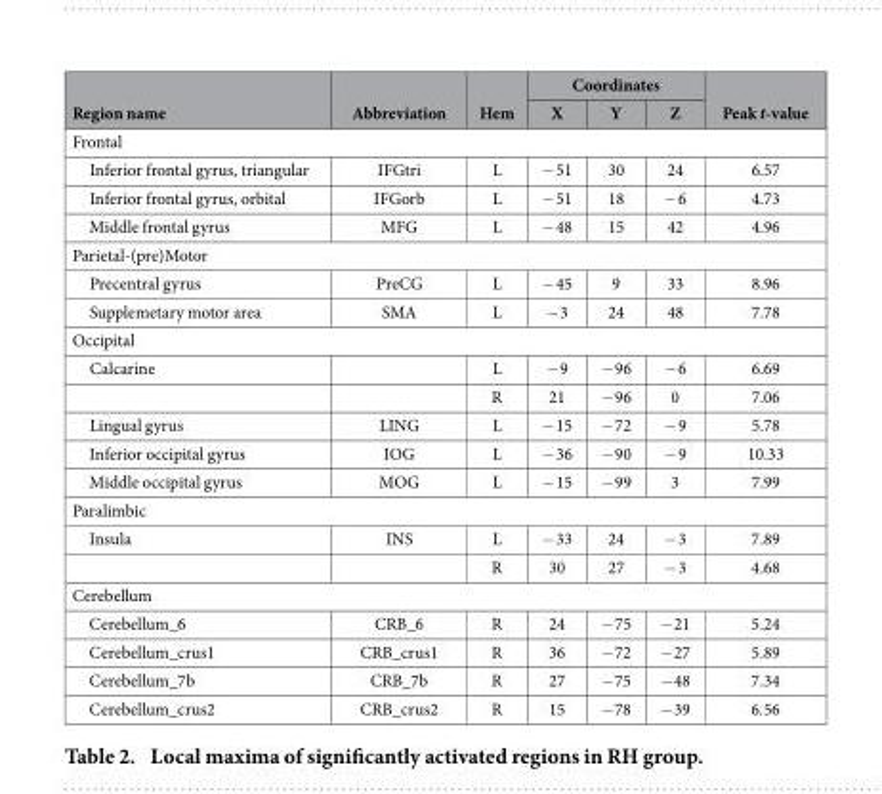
<table><thead><tr><td rowspan="2">Region name</td><td rowspan="2">Abbreviation</td><td rowspan="2">Hem</td><td colspan="3">Coordinates</td><td rowspan="2">Peak t-value</td></tr><tr><td>X</td><td>Y</td><td>Z</td></tr></thead><tbody><tr><td colspan="7">Frontal</td></tr><tr><td>Inferior frontal gyrus, triangular</td><td>IFGtri</td><td>L</td><td>− 51</td><td>30</td><td>24</td><td>6.57</td></tr><tr><td>Inferior frontal gyrus, orbital</td><td>IFGorb</td><td>L</td><td>− 51</td><td>18</td><td>− 6</td><td>4.73</td></tr><tr><td>Middle frontal gyrus</td><td>MFG</td><td>L</td><td>− 48</td><td>15</td><td>42</td><td>4.96</td></tr><tr><td colspan="7">Parietal-(pre)Motor</td></tr><tr><td>Precentral gyrus</td><td>PreCG</td><td>L</td><td>− 45</td><td>9</td><td>33</td><td>8.96</td></tr><tr><td>Supplemetary motor area</td><td>SMA</td><td>L</td><td>− 3</td><td>24</td><td>48</td><td>7.78</td></tr><tr><td colspan="7">Occipital</td></tr><tr><td rowspan="2">Calcarine</td><td></td><td>L</td><td>− 9</td><td>− 96</td><td>− 6</td><td>6.69</td></tr><tr><td></td><td>R</td><td>21</td><td>− 96</td><td>0</td><td>7.06</td></tr><tr><td>Lingual gyrus</td><td>LING</td><td>L</td><td>− 15</td><td>− 72</td><td>− 9</td><td>5.78</td></tr><tr><td>Inferior occipital gyrus</td><td>IOG</td><td>L</td><td>− 36</td><td>− 90</td><td>− 9</td><td>10.33</td></tr><tr><td>Middle occipital gyrus</td><td>MOG</td><td>L</td><td>− 15</td><td>− 99</td><td>3</td><td>7.99</td></tr><tr><td colspan="7">Paralimbic</td></tr><tr><td rowspan="2">Insula</td><td>INS</td><td>L</td><td>− 33</td><td>24</td><td>− 3</td><td>7.89</td></tr><tr><td></td><td>R</td><td>30</td><td>27</td><td>− 3</td><td>4.68</td></tr><tr><td colspan="7">Cerebellum</td></tr><tr><td>Cerebellum_6</td><td>CRB_6</td><td>R</td><td>24</td><td>− 75</td><td>− 21</td><td>5.24</td></tr><tr><td>Cerebellum_crus1</td><td>CRB_crus1</td><td>R</td><td>36</td><td>− 72</td><td>− 27</td><td>5.89</td></tr><tr><td>Cerebellum_7b</td><td>CRB_7b</td><td>R</td><td>27</td><td>− 75</td><td>− 48</td><td>7.34</td></tr><tr><td>Cerebellum_crus2</td><td>CRB_crus2</td><td>R</td><td>15</td><td>− 78</td><td>− 39</td><td>6.56</td></tr></tbody></table>